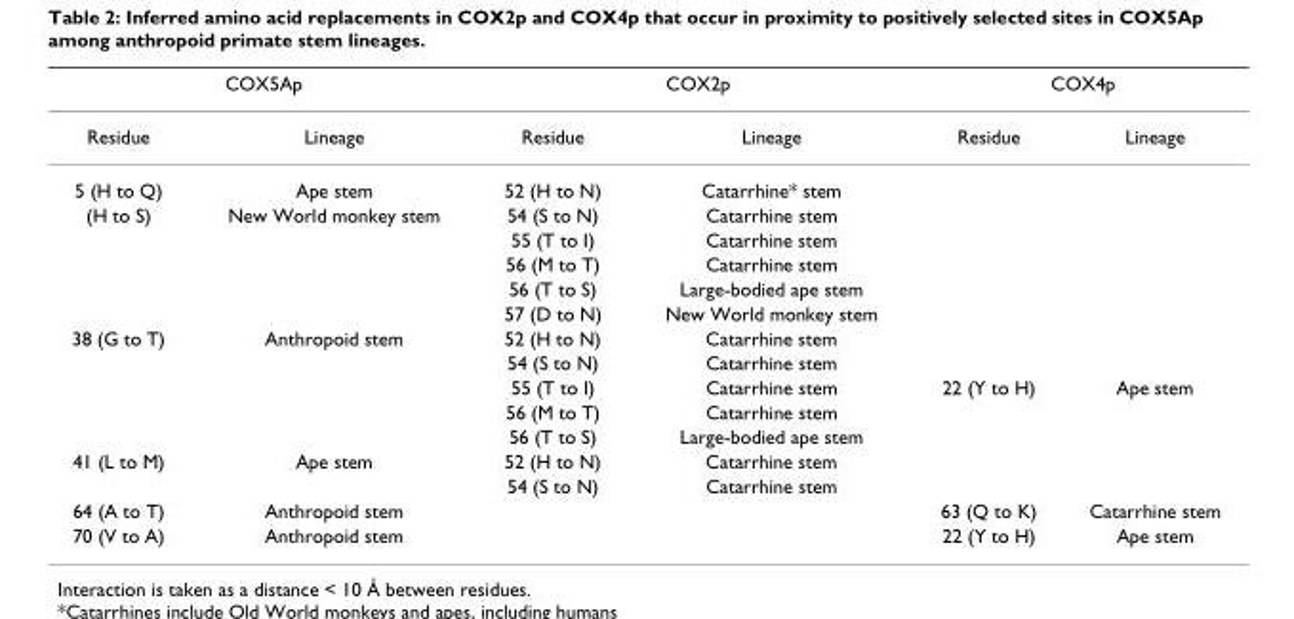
<table><thead><tr><td colspan="2">COX5Ap</td><td colspan="2">COX2p</td><td colspan="2">COX4p</td></tr><tr><td>Residue</td><td>Lineage</td><td>Residue</td><td>Lineage</td><td>Residue</td><td>Lineage</td></tr></thead><tbody><tr><td>5 (H to Q)</td><td>Ape stem</td><td>52 (H to N)</td><td>Catarrhine* stem</td><td></td><td></td></tr><tr><td rowspan="5">(H to S)</td><td>New World monkey stem</td><td>54 (S to N)</td><td>Catarrhine stem</td><td></td><td></td></tr><tr><td></td><td>55 (T to I)</td><td>Catarrhine stem</td><td></td><td></td></tr><tr><td></td><td>56 (M to T)</td><td>Catarrhine stem</td><td></td><td></td></tr><tr><td></td><td>56 (T to S)</td><td>Large-bodied ape stem</td><td></td><td></td></tr><tr><td></td><td>57 (D to N)</td><td>New World monkey stem</td><td></td><td></td></tr><tr><td rowspan="5">38 (G to T)</td><td>Anthropoid stem</td><td>52 (H to N)</td><td>Catarrhine stem</td><td></td><td></td></tr><tr><td></td><td>54 (S to N)</td><td>Catarrhine stem</td><td></td><td></td></tr><tr><td></td><td>55 (T to I)</td><td>Catarrhine stem</td><td>22 (Y to H)</td><td>Ape stem</td></tr><tr><td></td><td>56 (M to T)</td><td>Catarrhine stem</td><td></td><td></td></tr><tr><td></td><td>56 (T to S)</td><td>Large-bodied ape stem</td><td></td><td></td></tr><tr><td rowspan="2">41 (L to M)</td><td>Ape stem</td><td>52 (H to N)</td><td>Catarrhine stem</td><td></td><td></td></tr><tr><td></td><td>54 (S to N)</td><td>Catarrhine stem</td><td></td><td></td></tr><tr><td>64 (A to T)</td><td>Anthropoid stem</td><td></td><td></td><td>63 (Q to K)</td><td>Catarrhine stem</td></tr><tr><td>70 (V to A)</td><td>Anthropoid stem</td><td></td><td></td><td>22 (Y to H)</td><td>Ape stem</td></tr></tbody></table>